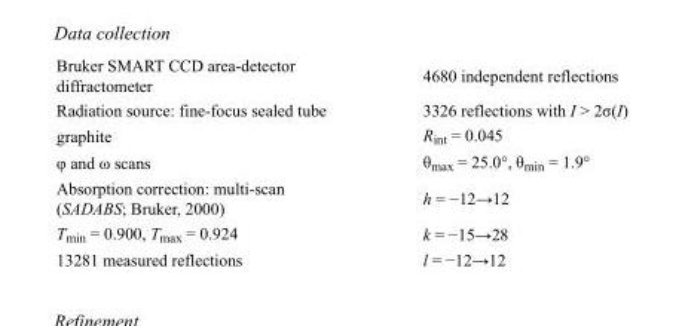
<table><tbody><tr><td>Bruker SMART CCD area-detector diffractometer</td><td>4680 independent reflections</td></tr><tr><td>Radiation source: fine-focus sealed tube</td><td>3326 reflections with I &gt; 2σ(I)</td></tr><tr><td>graphite</td><td>R<sub>int</sub> = 0.045</td></tr><tr><td>φ and ω scans</td><td>θ<sub>max</sub> = 25.0°, θ<sub>min</sub> = 1.9°</td></tr><tr><td>Absorption correction: multi-scan (SADABS; Bruker, 2000)</td><td>h = −12→12</td></tr><tr><td>T<sub>min</sub> = 0.900, T<sub>max</sub> = 0.924</td><td>k = −15→28</td></tr><tr><td>13281 measured reflections</td><td>l = −12→12</td></tr></tbody></table>